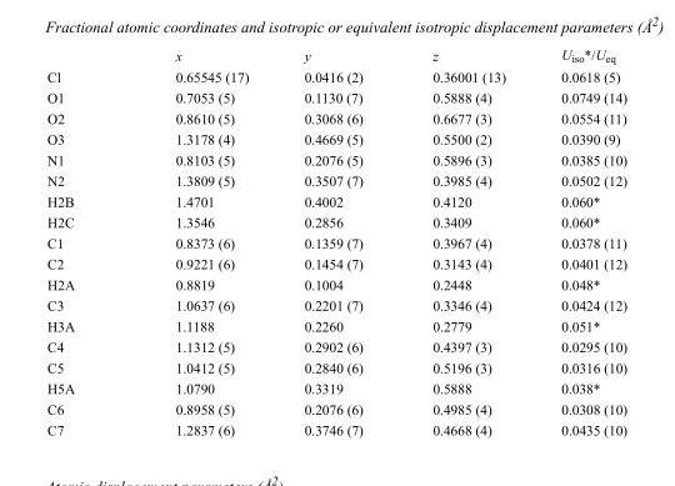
<table><thead><tr><td></td><td>x</td><td>y</td><td>z</td><td>U<sub>iso</sub>*/U<sub>eq</sub></td></tr></thead><tbody><tr><td>Cl</td><td>0.65545 (17)</td><td>0.0416 (2)</td><td>0.36001 (13)</td><td>0.0618 (5)</td></tr><tr><td>O1</td><td>0.7053 (5)</td><td>0.1130 (7)</td><td>0.5888 (4)</td><td>0.0749 (14)</td></tr><tr><td>O2</td><td>0.8610 (5)</td><td>0.3068 (6)</td><td>0.6677 (3)</td><td>0.0554 (11)</td></tr><tr><td>O3</td><td>1.3178 (4)</td><td>0.4669 (5)</td><td>0.5500 (2)</td><td>0.0390 (9)</td></tr><tr><td>N1</td><td>0.8103 (5)</td><td>0.2076 (5)</td><td>0.5896 (3)</td><td>0.0385 (10)</td></tr><tr><td>N2</td><td>1.3809 (5)</td><td>0.3507 (7)</td><td>0.3985 (4)</td><td>0.0502 (12)</td></tr><tr><td>H2B</td><td>1.4701</td><td>0.4002</td><td>0.4120</td><td>0.060*</td></tr><tr><td>H2C</td><td>1.3546</td><td>0.2856</td><td>0.3409</td><td>0.060*</td></tr><tr><td>C1</td><td>0.8373 (6)</td><td>0.1359 (7)</td><td>0.3967 (4)</td><td>0.0378 (11)</td></tr><tr><td>C2</td><td>0.9221 (6)</td><td>0.1454 (7)</td><td>0.3143 (4)</td><td>0.0401 (12)</td></tr><tr><td>H2A</td><td>0.8819</td><td>0.1004</td><td>0.2448</td><td>0.048*</td></tr><tr><td>C3</td><td>1.0637 (6)</td><td>0.2201 (7)</td><td>0.3346 (4)</td><td>0.0424 (12)</td></tr><tr><td>H3A</td><td>1.1188</td><td>0.2260</td><td>0.2779</td><td>0.051*</td></tr><tr><td>C4</td><td>1.1312 (5)</td><td>0.2902 (6)</td><td>0.4397 (3)</td><td>0.0295 (10)</td></tr><tr><td>C5</td><td>1.0412 (5)</td><td>0.2840 (6)</td><td>0.5196 (3)</td><td>0.0316 (10)</td></tr><tr><td>H5A</td><td>1.0790</td><td>0.3319</td><td>0.5888</td><td>0.038*</td></tr><tr><td>C6</td><td>0.8958 (5)</td><td>0.2076 (6)</td><td>0.4985 (4)</td><td>0.0308 (10)</td></tr><tr><td>C7</td><td>1.2837 (6)</td><td>0.3746 (7)</td><td>0.4668 (4)</td><td>0.0435 (10)</td></tr></tbody></table>